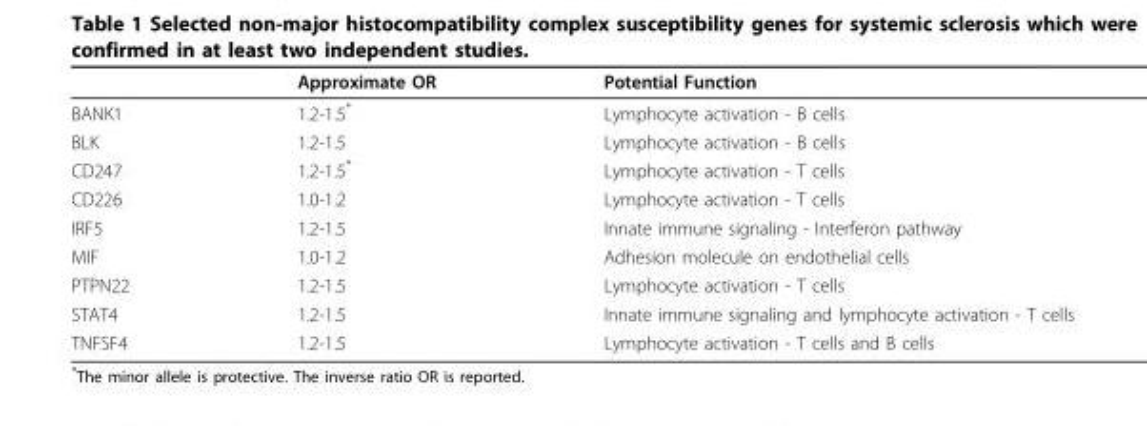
<table><thead><tr><td></td><td>Approximate OR</td><td>Potential Function</td></tr></thead><tbody><tr><td>BANK1</td><td>1.2-1.5*</td><td>Lymphocyte activation - B cells</td></tr><tr><td>BLK</td><td>1.2-1.5</td><td>Lymphocyte activation - B cells</td></tr><tr><td>CD247</td><td>1.2-1.5*</td><td>Lymphocyte activation - T cells</td></tr><tr><td>CD226</td><td>1.0-1.2</td><td>Lymphocyte activation - T cells</td></tr><tr><td>IRF5</td><td>1.2-1.5</td><td>Innate immune signaling - Interferon pathway</td></tr><tr><td>MIF</td><td>1.0-1.2</td><td>Adhesion molecule on endothelial cells</td></tr><tr><td>PTPN22</td><td>1.2-1.5</td><td>Lymphocyte activation - T cells</td></tr><tr><td>STAT4</td><td>1.2-1.5</td><td>Innate immune signaling and lymphocyte activation - T cells</td></tr><tr><td>TNFSF4</td><td>1.2-1.5</td><td>Lymphocyte activation - T cells and B cells</td></tr></tbody></table>